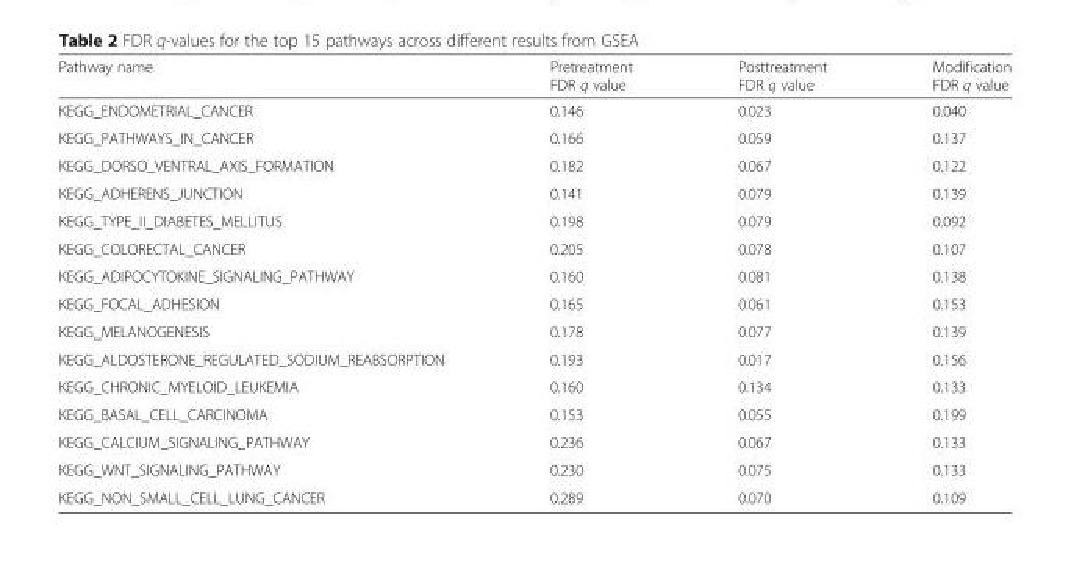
<table><thead><tr><td>Pathway name</td><td>Pretreatment FDR q value</td><td>Posttreatment FDR q value</td><td>Modification FDR q value</td></tr></thead><tbody><tr><td>KEGG_ENDOMETRIAL_CANCER</td><td>0.146</td><td>0.023</td><td>0.040</td></tr><tr><td>KEGG_PATHWAYS_IN_CANCER</td><td>0.166</td><td>0.059</td><td>0.137</td></tr><tr><td>KEGG_DORSO_VENTRAL_AXIS_FORMATION</td><td>0.182</td><td>0.067</td><td>0.122</td></tr><tr><td>KEGG_ADHERENS_JUNCTION</td><td>0.141</td><td>0.079</td><td>0.139</td></tr><tr><td>KEGG_TYPE_II_DIABETES_MELLITUS</td><td>0.198</td><td>0.079</td><td>0.092</td></tr><tr><td>KEGG_COLORECTAL_CANCER</td><td>0.205</td><td>0.078</td><td>0.107</td></tr><tr><td>KEGG_ADIPOCYTOKINE_SIGNALING_PATHWAY</td><td>0.160</td><td>0.081</td><td>0.138</td></tr><tr><td>KEGG_FOCAL_ADHESION</td><td>0.165</td><td>0.061</td><td>0.153</td></tr><tr><td>KEGG_MELANOGENESIS</td><td>0.178</td><td>0.077</td><td>0.139</td></tr><tr><td>KEGG_ALDOSTERONE_REGULATED_SODIUM_REABSORPTION</td><td>0.193</td><td>0.017</td><td>0.156</td></tr><tr><td>KEGG_CHRONIC_MYELOID_LEUKEMIA</td><td>0.160</td><td>0.134</td><td>0.133</td></tr><tr><td>KEGG_BASAL_CELL_CARCINOMA</td><td>0.153</td><td>0.055</td><td>0.199</td></tr><tr><td>KEGG_CALCIUM_SIGNALING_PATHWAY</td><td>0.236</td><td>0.067</td><td>0.133</td></tr><tr><td>KEGG_WNT_SIGNALING_PATHWAY</td><td>0.230</td><td>0.075</td><td>0.133</td></tr><tr><td>KEGG_NON_SMALL_CELL_LUNG_CANCER</td><td>0.289</td><td>0.070</td><td>0.109</td></tr></tbody></table>